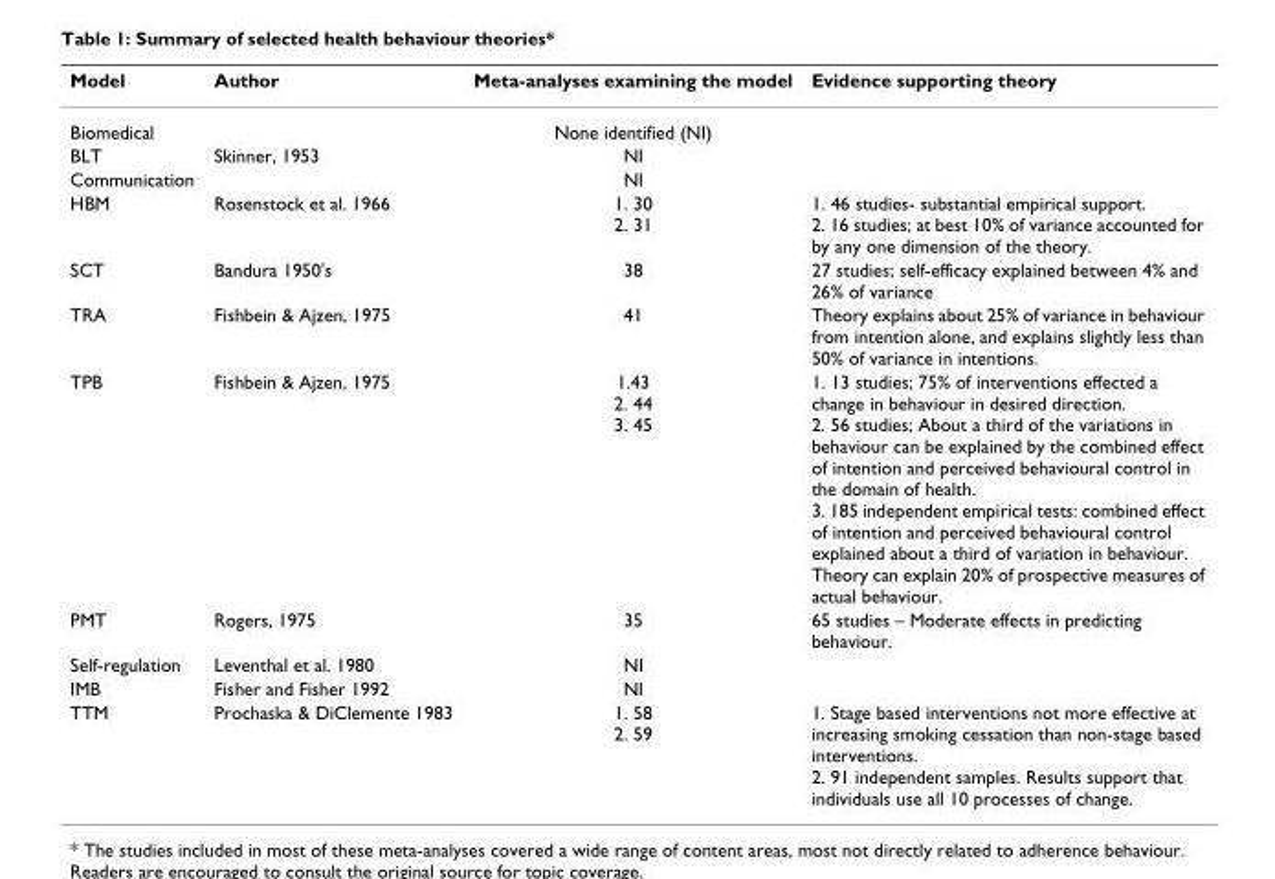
<table><thead><tr><td>Model</td><td>Author</td><td>Meta-analyses examining the model</td><td>Evidence supporting theory</td></tr></thead><tbody><tr><td>Biomedical</td><td></td><td>None identified (NI)</td><td></td></tr><tr><td>BLT</td><td>Skinner, 1953</td><td>NI</td><td></td></tr><tr><td>Communication</td><td></td><td>NI</td><td></td></tr><tr><td>HBM</td><td>Rosenstock et al. 1966</td><td>1. 30 2. 31</td><td>1. 46 studies- substantial empirical support. 2. 16 studies; at best 10% of variance accounted for by any one dimension of the theory.</td></tr><tr><td>SCT</td><td>Bandura 1950&#x27;s</td><td>38</td><td>27 studies; self-efficacy explained between 4% and 26% of variance</td></tr><tr><td>TRA</td><td>Fishbein &amp; Ajzen, 1975</td><td>41</td><td>Theory explains about 25% of variance in behaviour from intention alone, and explains slightly less than 50% of variance in intentions.</td></tr><tr><td>TPB</td><td>Fishbein &amp; Ajzen, 1975</td><td>1.43 2. 44 3. 45</td><td>1. 13 studies; 75% of interventions effected a change in behaviour in desired direction. 2. 56 studies; About a third of the variations in behaviour can be explained by the combined effect of intention and perceived behavioural control in the domain of health. 3. 185 independent empirical tests: combined effect of intention and perceived behavioural control explained about a third of variation in behaviour. Theory can explain 20% of prospective measures of actual behaviour.</td></tr><tr><td>PMT</td><td>Rogers, 1975</td><td>35</td><td>65 studies – Moderate effects in predicting behaviour.</td></tr><tr><td>Self-regulation</td><td>Leventhal et al. 1980</td><td>NI</td><td></td></tr><tr><td>IMB</td><td>Fisher and Fisher 1992</td><td>NI</td><td></td></tr><tr><td>TTM</td><td>Prochaska &amp; DiClemente 1983</td><td>1. 58 2. 59</td><td>1. Stage based interventions not more effective at increasing smoking cessation than non-stage based interventions. 2. 91 independent samples. Results support that individuals use all 10 processes of change.</td></tr></tbody></table>